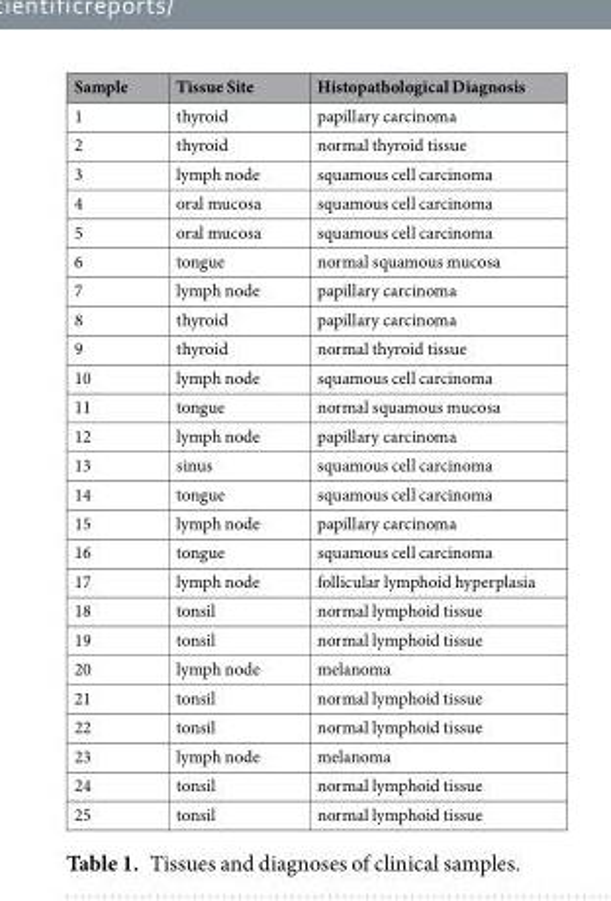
<table><thead><tr><td>Sample</td><td>Tissue Site</td><td>Histopathological Diagnosis</td></tr></thead><tbody><tr><td>1</td><td>thyroid</td><td>papillary carcinoma</td></tr><tr><td>2</td><td>thyroid</td><td>normal thyroid tissue</td></tr><tr><td>3</td><td>lymph node</td><td>squamous cell carcinoma</td></tr><tr><td>4</td><td>oral mucosa</td><td>squamous cell carcinoma</td></tr><tr><td>5</td><td>oral mucosa</td><td>squamous cell carcinoma</td></tr><tr><td>6</td><td>tongue</td><td>normal squamous mucosa</td></tr><tr><td>7</td><td>lymph node</td><td>papillary carcinoma</td></tr><tr><td>8</td><td>thyroid</td><td>papillary carcinoma</td></tr><tr><td>9</td><td>thyroid</td><td>normal thyroid tissue</td></tr><tr><td>10</td><td>lymph node</td><td>squamous cell carcinoma</td></tr><tr><td>11</td><td>tongue</td><td>normal squamous mucosa</td></tr><tr><td>12</td><td>lymph node</td><td>papillary carcinoma</td></tr><tr><td>13</td><td>sinus</td><td>squamous cell carcinoma</td></tr><tr><td>14</td><td>tongue</td><td>squamous cell carcinoma</td></tr><tr><td>15</td><td>lymph node</td><td>papillary carcinoma</td></tr><tr><td>16</td><td>tongue</td><td>squamous cell carcinoma</td></tr><tr><td>17</td><td>lymph node</td><td>follicular lymphoid hyperplasia</td></tr><tr><td>18</td><td>tonsil</td><td>normal lymphoid tissue</td></tr><tr><td>19</td><td>tonsil</td><td>normal lymphoid tissue</td></tr><tr><td>20</td><td>lymph node</td><td>melanoma</td></tr><tr><td>21</td><td>tonsil</td><td>normal lymphoid tissue</td></tr><tr><td>22</td><td>tonsil</td><td>normal lymphoid tissue</td></tr><tr><td>23</td><td>lymph node</td><td>melanoma</td></tr><tr><td>24</td><td>tonsil</td><td>normal lymphoid tissue</td></tr><tr><td>25</td><td>tonsil</td><td>normal lymphoid tissue</td></tr></tbody></table>